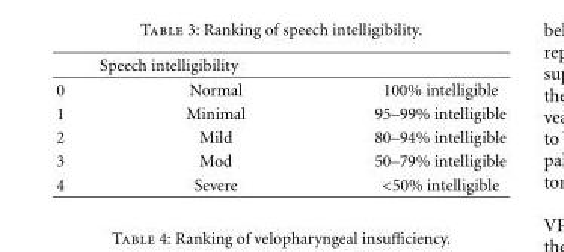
<table><thead><tr><td colspan="2">Speech intelligibility</td><td rowspan="2">100% intelligible</td></tr><tr><td>0</td><td>Normal</td></tr></thead><tbody><tr><td>1</td><td>Minimal</td><td>95–99% intelligible</td></tr><tr><td>2</td><td>Mild</td><td>80–94% intelligible</td></tr><tr><td>3</td><td>Mod</td><td>50–79% intelligible</td></tr><tr><td>4</td><td>Severe</td><td>&lt;50% intelligible</td></tr></tbody></table>